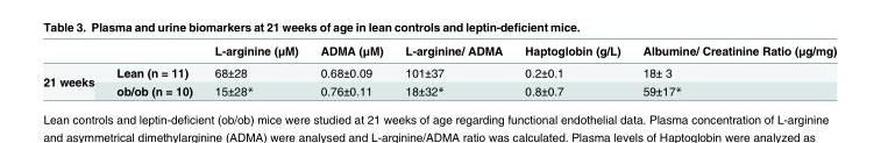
<table><thead><tr><td></td><td></td><td>L-arginine (μM)</td><td>ADMA (μM)</td><td>L-arginine/ ADMA</td><td>Haptoglobin (g/L)</td><td>Albumine/ Creatinine Ratio (μg/mg)</td></tr></thead><tbody><tr><td rowspan="2">21 weeks</td><td>Lean (n = 11)</td><td>68±28</td><td>0.68±0.09</td><td>101±37</td><td>0.2±0.1</td><td>18± 3</td></tr><tr><td>ob/ob (n = 10)</td><td>15±28*</td><td>0.76±0.11</td><td>18±32*</td><td>0.8±0.7</td><td>59±17*</td></tr></tbody></table>